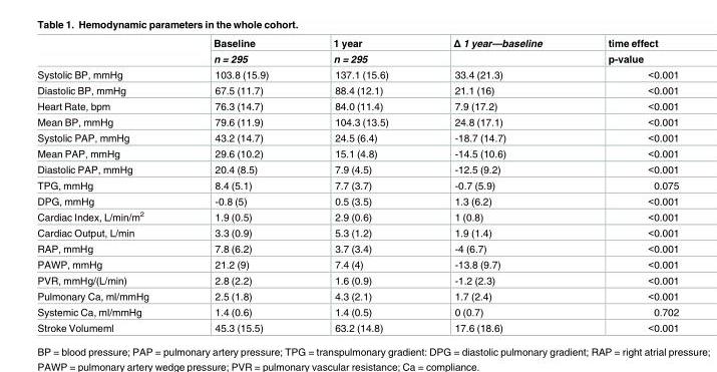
<table><thead><tr><td rowspan="2"></td><td rowspan="2">Baseline n = 295</td><td rowspan="2">1 year n = 295</td><td rowspan="2">Δ 1 year—baseline</td><td rowspan="2">time effect p-value</td></tr><tr></tr></thead><tbody><tr><td>Systolic BP, mmHg</td><td>103.8 (15.9)</td><td>137.1 (15.6)</td><td>33.4 (21.3)</td><td>&lt;0.001</td></tr><tr><td>Diastolic BP, mmHg</td><td>67.5 (11.7)</td><td>88.4 (12.1)</td><td>21.1 (16)</td><td>&lt;0.001</td></tr><tr><td>Heart Rate, bpm</td><td>76.3 (14.7)</td><td>84.0 (11.4)</td><td>7.9 (17.2)</td><td>&lt;0.001</td></tr><tr><td>Mean BP, mmHg</td><td>79.6 (11.9)</td><td>104.3 (13.5)</td><td>24.8 (17.1)</td><td>&lt;0.001</td></tr><tr><td>Systolic PAP, mmHg</td><td>43.2 (14.7)</td><td>24.5 (6.4)</td><td>-18.7 (14.7)</td><td>&lt;0.001</td></tr><tr><td>Mean PAP, mmHg</td><td>29.6 (10.2)</td><td>15.1 (4.8)</td><td>-14.5 (10.6)</td><td>&lt;0.001</td></tr><tr><td>Diastolic PAP, mmHg</td><td>20.4 (8.5)</td><td>7.9 (4.5)</td><td>-12.5 (9.2)</td><td>&lt;0.001</td></tr><tr><td>TPG, mmHg</td><td>8.4 (5.1)</td><td>7.7 (3.7)</td><td>-0.7 (5.9)</td><td>0.075</td></tr><tr><td>DPG, mmHg</td><td>-0.8 (5)</td><td>0.5 (3.5)</td><td>1.3 (6.2)</td><td>&lt;0.001</td></tr><tr><td>Cardiac Index, L/min/m<sup>2</sup></td><td>1.9 (0.5)</td><td>2.9 (0.6)</td><td>1 (0.8)</td><td>&lt;0.001</td></tr><tr><td>Cardiac Output, L/min</td><td>3.3 (0.9)</td><td>5.3 (1.2)</td><td>1.9 (1.4)</td><td>&lt;0.001</td></tr><tr><td>RAP, mmHg</td><td>7.8 (6.2)</td><td>3.7 (3.4)</td><td>-4 (6.7)</td><td>&lt;0.001</td></tr><tr><td>PAWP, mmHg</td><td>21.2 (9)</td><td>7.4 (4)</td><td>-13.8 (9.7)</td><td>&lt;0.001</td></tr><tr><td>PVR, mmHg/(L/min)</td><td>2.8 (2.2)</td><td>1.6 (0.9)</td><td>-1.2 (2.3)</td><td>&lt;0.001</td></tr><tr><td>Pulmonary Ca, ml/mmHg</td><td>2.5 (1.8)</td><td>4.3 (2.1)</td><td>1.7 (2.4)</td><td>&lt;0.001</td></tr><tr><td>Systemic Ca, ml/mmHg</td><td>1.4 (0.6)</td><td>1.4 (0.5)</td><td>0 (0.7)</td><td>0.702</td></tr><tr><td>Stroke Volumeml</td><td>45.3 (15.5)</td><td>63.2 (14.8)</td><td>17.6 (18.6)</td><td>&lt;0.001</td></tr></tbody></table>